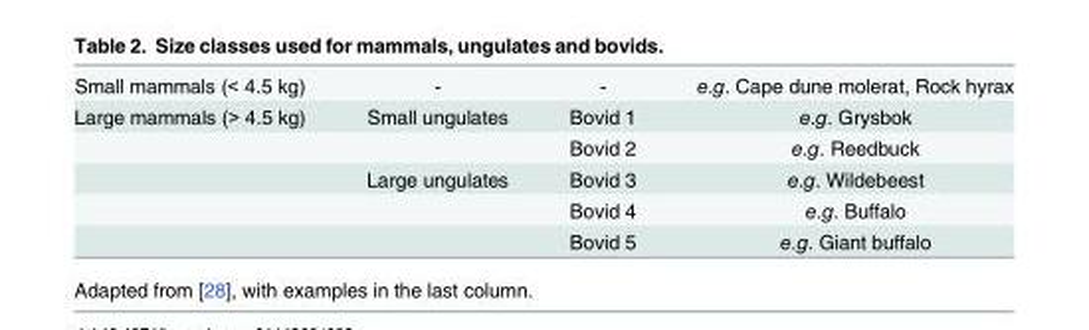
<table><tbody><tr><td>Small mammals (&lt; 4.5 kg)</td><td>-</td><td>-</td><td>e.g. Cape dune molerat, Rock hyrax</td></tr><tr><td rowspan="5">Large mammals (&gt; 4.5 kg)</td><td>Small ungulates</td><td>Bovid 1</td><td>e.g. Grysbok</td></tr><tr><td></td><td>Bovid 2</td><td>e.g. Reedbuck</td></tr><tr><td>Large ungulates</td><td>Bovid 3</td><td>e.g. Wildebeest</td></tr><tr><td></td><td>Bovid 4</td><td>e.g. Buffalo</td></tr><tr><td></td><td>Bovid 5</td><td>e.g. Giant buffalo</td></tr></tbody></table>